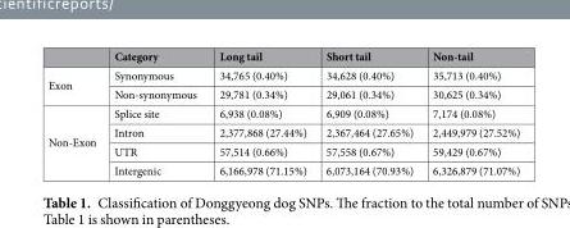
<table><thead><tr><td></td><td>Category</td><td>Long tail</td><td>Short tail</td><td>Non-tail</td></tr></thead><tbody><tr><td rowspan="2">Exon</td><td>Synonymous</td><td>34,765 (0.40%)</td><td>34,628 (0.40%)</td><td>35,713 (0.40%)</td></tr><tr><td>Non-synonymous</td><td>29,781 (0.34%)</td><td>29,061 (0.34%)</td><td>30,625 (0.34%)</td></tr><tr><td rowspan="4">Non-Exon</td><td>Splice site</td><td>6,938 (0.08%)</td><td>6,909 (0.08%)</td><td>7,174 (0.08%)</td></tr><tr><td>Intron</td><td>2,377,868 (27.44%)</td><td>2,367,464 (27.65%)</td><td>2,449,979 (27.52%)</td></tr><tr><td>UTR</td><td>57,514 (0.66%)</td><td>57,558 (0.67%)</td><td>59,429 (0.67%)</td></tr><tr><td>Intergenic</td><td>6,166,978 (71.15%)</td><td>6,073,164 (70.93%)</td><td>6,326,879 (71.07%)</td></tr></tbody></table>